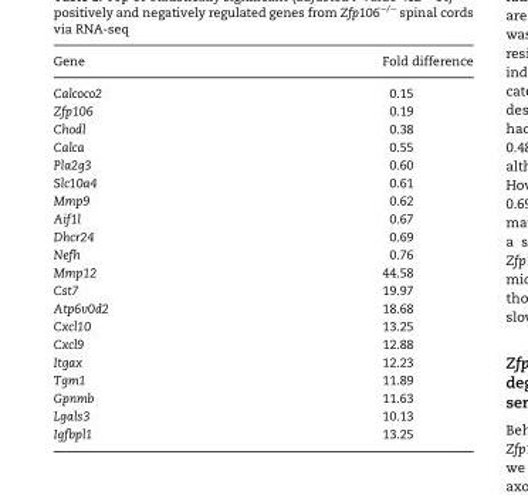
<table><thead><tr><td>Gene</td><td>Fold difference</td></tr></thead><tbody><tr><td>Calcoco2</td><td>0.15</td></tr><tr><td>Zfp106</td><td>0.19</td></tr><tr><td>Chodl</td><td>0.38</td></tr><tr><td>Calca</td><td>0.55</td></tr><tr><td>Pla2g3</td><td>0.60</td></tr><tr><td>Slc10a4</td><td>0.61</td></tr><tr><td>Mmp9</td><td>0.62</td></tr><tr><td>Aif1l</td><td>0.67</td></tr><tr><td>Dhcr24</td><td>0.69</td></tr><tr><td>Nefh</td><td>0.76</td></tr><tr><td>Mmp12</td><td>44.58</td></tr><tr><td>Cst7</td><td>19.97</td></tr><tr><td>Atp6v0d2</td><td>18.68</td></tr><tr><td>Cxcl10</td><td>13.25</td></tr><tr><td>Cxcl9</td><td>12.88</td></tr><tr><td>Itgax</td><td>12.23</td></tr><tr><td>Tgm1</td><td>11.89</td></tr><tr><td>Gpnmb</td><td>11.63</td></tr><tr><td>Lgals3</td><td>10.13</td></tr><tr><td>Igfbpl1</td><td>13.25</td></tr></tbody></table>